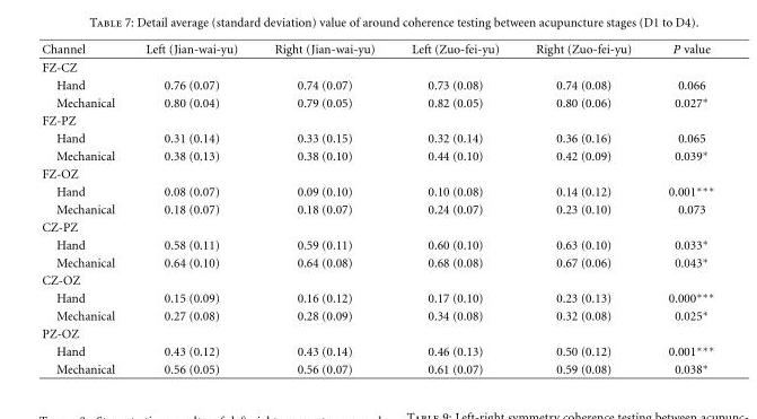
<table><thead><tr><td>Channel</td><td>Left (Jian-wai-yu)</td><td>Right (Jian-wai-yu)</td><td>Left (Zuo-fei-yu)</td><td>Right (Zuo-fei-yu)</td><td>P value</td></tr></thead><tbody><tr><td colspan="6">FZ-CZ</td></tr><tr><td>Hand</td><td>0.76 (0.07)</td><td>0.74 (0.07)</td><td>0.73 (0.08)</td><td>0.74 (0.08)</td><td>0.066</td></tr><tr><td>Mechanical</td><td>0.80 (0.04)</td><td>0.79 (0.05)</td><td>0.82 (0.05)</td><td>0.80 (0.06)</td><td>0.027∗</td></tr><tr><td colspan="6">FZ-PZ</td></tr><tr><td>Hand</td><td>0.31 (0.14)</td><td>0.33 (0.15)</td><td>0.32 (0.14)</td><td>0.36 (0.16)</td><td>0.065</td></tr><tr><td>Mechanical</td><td>0.38 (0.13)</td><td>0.38 (0.10)</td><td>0.44 (0.10)</td><td>0.42 (0.09)</td><td>0.039∗</td></tr><tr><td colspan="6">FZ-OZ</td></tr><tr><td>Hand</td><td>0.08 (0.07)</td><td>0.09 (0.10)</td><td>0.10 (0.08)</td><td>0.14 (0.12)</td><td>0.001∗∗∗</td></tr><tr><td>Mechanical</td><td>0.18 (0.07)</td><td>0.18 (0.07)</td><td>0.24 (0.07)</td><td>0.23 (0.10)</td><td>0.073</td></tr><tr><td colspan="6">CZ-PZ</td></tr><tr><td>Hand</td><td>0.58 (0.11)</td><td>0.59 (0.11)</td><td>0.60 (0.10)</td><td>0.63 (0.10)</td><td>0.033∗</td></tr><tr><td>Mechanical</td><td>0.64 (0.10)</td><td>0.64 (0.08)</td><td>0.68 (0.08)</td><td>0.67 (0.06)</td><td>0.043∗</td></tr><tr><td colspan="6">CZ-OZ</td></tr><tr><td>Hand</td><td>0.15 (0.09)</td><td>0.16 (0.12)</td><td>0.17 (0.10)</td><td>0.23 (0.13)</td><td>0.000∗∗∗</td></tr><tr><td>Mechanical</td><td>0.27 (0.08)</td><td>0.28 (0.09)</td><td>0.34 (0.08)</td><td>0.32 (0.08)</td><td>0.025∗</td></tr><tr><td colspan="6">PZ-OZ</td></tr><tr><td>Hand</td><td>0.43 (0.12)</td><td>0.43 (0.14)</td><td>0.46 (0.13)</td><td>0.50 (0.12)</td><td>0.001∗∗∗</td></tr><tr><td>Mechanical</td><td>0.56 (0.05)</td><td>0.56 (0.07)</td><td>0.61 (0.07)</td><td>0.59 (0.08)</td><td>0.038∗</td></tr></tbody></table>